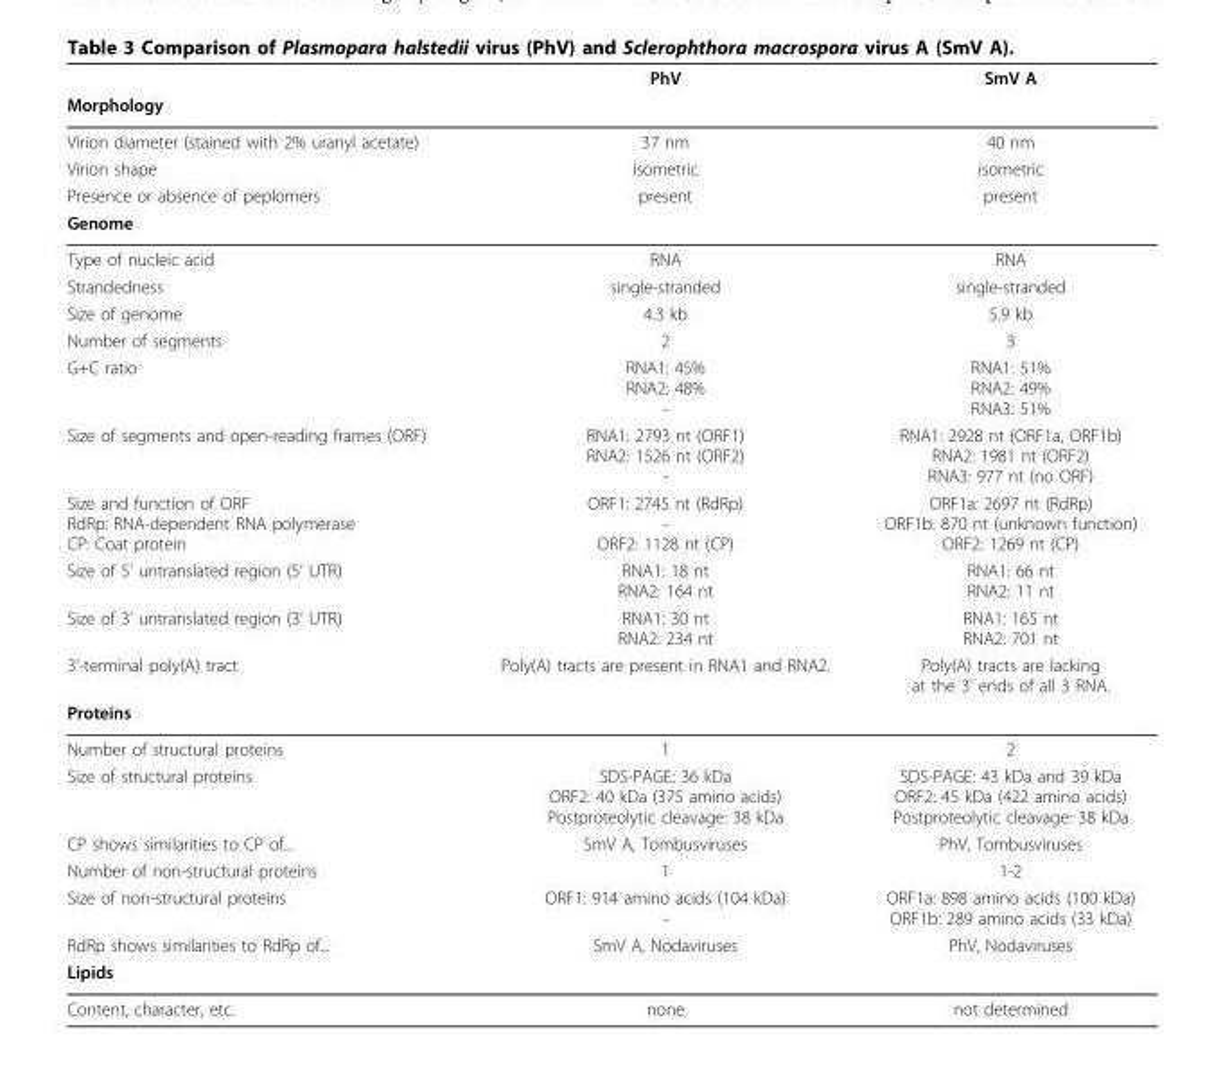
<table><thead><tr><td rowspan="2">Morphology</td><td rowspan="2">PhV</td><td rowspan="2">SmV A</td></tr><tr></tr></thead><tbody><tr><td>Virion diameter (stained with 2% uranyl acetate)</td><td>37 nm</td><td>40 nm</td></tr><tr><td>Virion shape</td><td>isometric</td><td>isometric</td></tr><tr><td>Presence or absence of peplomers</td><td>present</td><td>present</td></tr><tr><td colspan="3">Genome</td></tr><tr><td>Type of nucleic acid</td><td>RNA</td><td>RNA</td></tr><tr><td>Strandedness</td><td>single-stranded</td><td>single-stranded</td></tr><tr><td>Size of genome</td><td>4.3 kb</td><td>5.9 kb</td></tr><tr><td>Number of segments</td><td>2</td><td>3</td></tr><tr><td>G+C ratio</td><td>RNA1: 45% RNA2: 48% -</td><td>RNA1: 51% RNA2: 49% RNA3: 51%</td></tr><tr><td>Size of segments and open-reading frames (ORF)</td><td>RNA1: 2793 nt (ORF1) RNA2: 1526 nt (ORF2) -</td><td>RNA1: 2928 nt (ORF1a, ORF1b) RNA2: 1981 nt (ORF2) RNA3: 977 nt (no ORF)</td></tr><tr><td>Size and function of ORF RdRp: RNA-dependent RNA polymerase CP: Coat protein</td><td>ORF1: 2745 nt (RdRp) - ORF2: 1128 nt (CP)</td><td>ORF1a: 2697 nt (RdRp) ORF1b: 870 nt (unknown function) ORF2: 1269 nt (CP)</td></tr><tr><td>Size of 5’ untranslated region (5’ UTR)</td><td>RNA1: 18 nt RNA2: 164 nt</td><td>RNA1: 66 nt RNA2: 11 nt</td></tr><tr><td>Size of 3’ untranslated region (3’ UTR)</td><td>RNA1: 30 nt RNA2: 234 nt</td><td>RNA1: 165 nt RNA2: 701 nt</td></tr><tr><td>3’-terminal poly(A) tract</td><td>Poly(A) tracts are present in RNA1 and RNA2.</td><td>Poly(A) tracts are lacking at the 3’ ends of all 3 RNA.</td></tr><tr><td colspan="3">Proteins</td></tr><tr><td>Number of structural proteins</td><td>1</td><td>2</td></tr><tr><td>Size of structural proteins</td><td>SDS-PAGE: 36 kDa ORF2: 40 kDa (375 amino acids) Postproteolytic cleavage: 38 kDa</td><td>SDS-PAGE: 43 kDa and 39 kDa ORF2: 45 kDa (422 amino acids) Postproteolytic cleavage: 38 kDa</td></tr><tr><td>CP shows similarities to CP of...</td><td>SmV A, Tombusviruses</td><td>PhV, Tombusviruses</td></tr><tr><td>Number of non-structural proteins</td><td>1</td><td>1-2</td></tr><tr><td>Size of non-structural proteins</td><td>ORF1: 914 amino acids (104 kDa) -</td><td>ORF1a: 898 amino acids (100 kDa) ORF1b: 289 amino acids (33 kDa)</td></tr><tr><td>RdRp shows similarities to RdRp of...</td><td>SmV A, Nodaviruses</td><td>PhV, Nodaviruses</td></tr><tr><td colspan="3">Lipids</td></tr><tr><td>Content, character, etc.</td><td>none</td><td>not determined</td></tr></tbody></table>